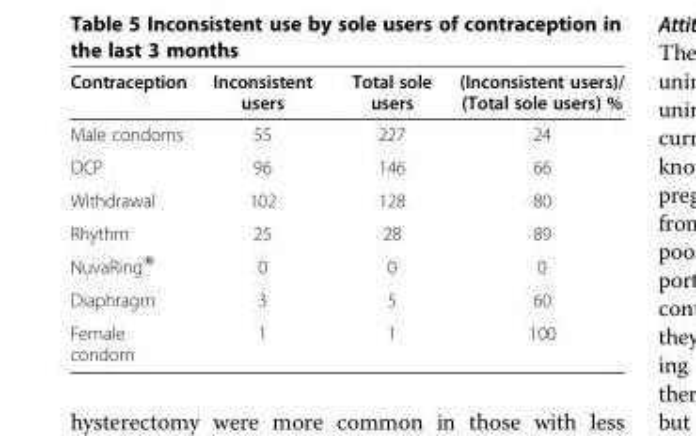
<table><thead><tr><td>Contraception</td><td>Inconsistent users</td><td>Total sole users</td><td>(Inconsistent users)/ (Total sole users) %</td></tr></thead><tbody><tr><td>Male condoms</td><td>55</td><td>227</td><td>24</td></tr><tr><td>OCP</td><td>96</td><td>146</td><td>66</td></tr><tr><td>Withdrawal</td><td>102</td><td>128</td><td>80</td></tr><tr><td>Rhythm</td><td>25</td><td>28</td><td>89</td></tr><tr><td>NuvaRing®</td><td>0</td><td>0</td><td>0</td></tr><tr><td>Diaphragm</td><td>3</td><td>5</td><td>60</td></tr><tr><td>Female condom</td><td>1</td><td>1</td><td>100</td></tr></tbody></table>